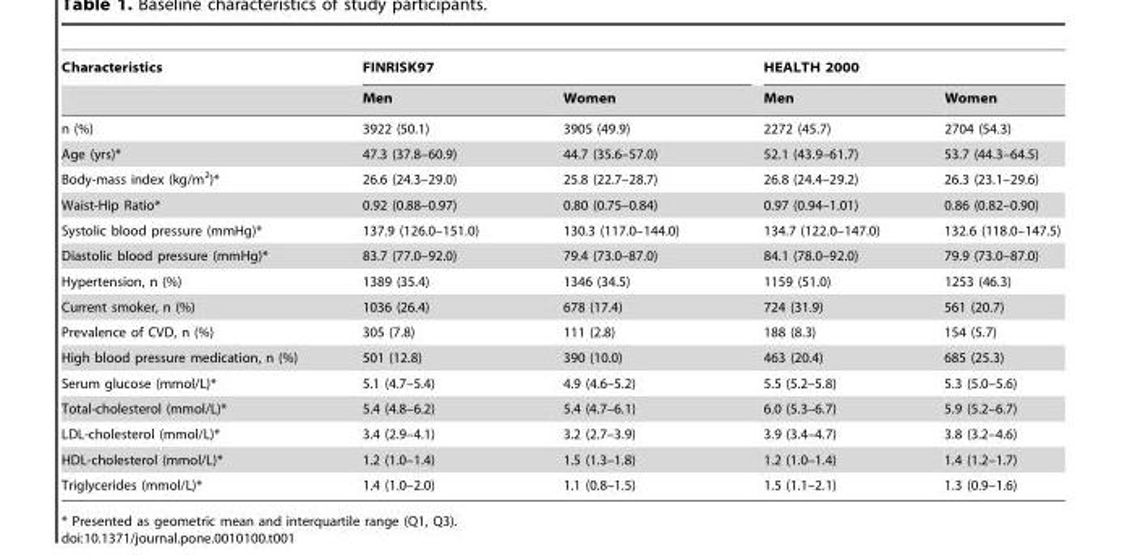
<table><thead><tr><td rowspan="2">Characteristics</td><td colspan="2">FINRISK97</td><td colspan="2">HEALTH 2000</td></tr><tr><td>Men</td><td>Women</td><td>Men</td><td>Women</td></tr></thead><tbody><tr><td>n (%)</td><td>3922 (50.1)</td><td>3905 (49.9)</td><td>2272 (45.7)</td><td>2704 (54.3)</td></tr><tr><td>Age (yrs)*</td><td>47.3 (37.8–60.9)</td><td>44.7 (35.6–57.0)</td><td>52.1 (43.9–61.7)</td><td>53.7 (44.3–64.5)</td></tr><tr><td>Body-mass index (kg/m<sup>2</sup>)*</td><td>26.6 (24.3–29.0)</td><td>25.8 (22.7–28.7)</td><td>26.8 (24.4–29.2)</td><td>26.3 (23.1–29.6)</td></tr><tr><td>Waist-Hip Ratio*</td><td>0.92 (0.88–0.97)</td><td>0.80 (0.75–0.84)</td><td>0.97 (0.94–1.01)</td><td>0.86 (0.82–0.90)</td></tr><tr><td>Systolic blood pressure (mmHg)*</td><td>137.9 (126.0–151.0)</td><td>130.3 (117.0–144.0)</td><td>134.7 (122.0–147.0)</td><td>132.6 (118.0–147.5)</td></tr><tr><td>Diastolic blood pressure (mmHg)*</td><td>83.7 (77.0–92.0)</td><td>79.4 (73.0–87.0)</td><td>84.1 (78.0–92.0)</td><td>79.9 (73.0–87.0)</td></tr><tr><td>Hypertension, n (%)</td><td>1389 (35.4)</td><td>1346 (34.5)</td><td>1159 (51.0)</td><td>1253 (46.3)</td></tr><tr><td>Current smoker, n (%)</td><td>1036 (26.4)</td><td>678 (17.4)</td><td>724 (31.9)</td><td>561 (20.7)</td></tr><tr><td>Prevalence of CVD, n (%)</td><td>305 (7.8)</td><td>111 (2.8)</td><td>188 (8.3)</td><td>154 (5.7)</td></tr><tr><td>High blood pressure medication, n (%)</td><td>501 (12.8)</td><td>390 (10.0)</td><td>463 (20.4)</td><td>685 (25.3)</td></tr><tr><td>Serum glucose (mmol/L)*</td><td>5.1 (4.7–5.4)</td><td>4.9 (4.6–5.2)</td><td>5.5 (5.2–5.8)</td><td>5.3 (5.0–5.6)</td></tr><tr><td>Total-cholesterol (mmol/L)*</td><td>5.4 (4.8–6.2)</td><td>5.4 (4.7–6.1)</td><td>6.0 (5.3–6.7)</td><td>5.9 (5.2–6.7)</td></tr><tr><td>LDL-cholesterol (mmol/L)*</td><td>3.4 (2.9–4.1)</td><td>3.2 (2.7–3.9)</td><td>3.9 (3.4–4.7)</td><td>3.8 (3.2–4.6)</td></tr><tr><td>HDL-cholesterol (mmol/L)*</td><td>1.2 (1.0–1.4)</td><td>1.5 (1.3–1.8)</td><td>1.2 (1.0–1.4)</td><td>1.4 (1.2–1.7)</td></tr><tr><td>Triglycerides (mmol/L)*</td><td>1.4 (1.0–2.0)</td><td>1.1 (0.8–1.5)</td><td>1.5 (1.1–2.1)</td><td>1.3 (0.9–1.6)</td></tr></tbody></table>